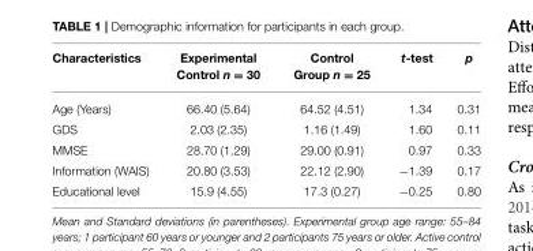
<table><thead><tr><td>Characteristics</td><td>Experimental Control n = 30</td><td>Control Group n = 25</td><td>t-test</td><td>p</td></tr></thead><tbody><tr><td>Age (Years)</td><td>66.40 (5.64)</td><td>64.52 (4.51)</td><td>1.34</td><td>0.31</td></tr><tr><td>GDS</td><td>2.03 (2.35)</td><td>1.16 (1.49)</td><td>1.60</td><td>0.11</td></tr><tr><td>MMSE</td><td>28.70 (1.29)</td><td>29.00 (0.91)</td><td>0.97</td><td>0.33</td></tr><tr><td>Information (WAIS)</td><td>20.80 (3.53)</td><td>22.12 (2.90)</td><td>−1.39</td><td>0.17</td></tr><tr><td>Educational level</td><td>15.9 (4.55)</td><td>17.3 (0.27)</td><td>−0.25</td><td>0.80</td></tr></tbody></table>